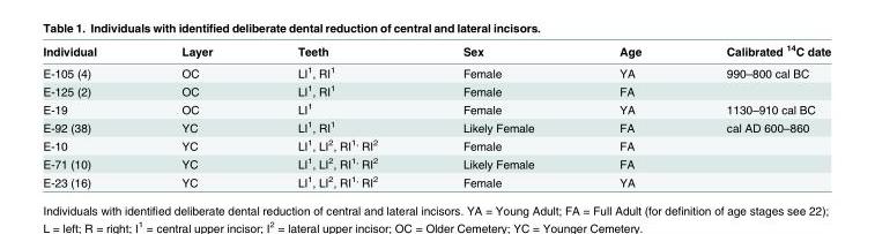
<table><thead><tr><td>Individual</td><td>Layer</td><td>Teeth</td><td>Sex</td><td>Age</td><td>Calibrated <sup>14</sup>C date</td></tr></thead><tbody><tr><td>E-105 (4)</td><td>OC</td><td>LI<sup>1</sup>, RI<sup>1</sup></td><td>Female</td><td>YA</td><td>990–800 cal BC</td></tr><tr><td>E-125 (2)</td><td>OC</td><td>LI<sup>1</sup>, RI<sup>1</sup></td><td>Female</td><td>FA</td><td></td></tr><tr><td>E-19</td><td>OC</td><td>LI<sup>1</sup></td><td>Female</td><td>YA</td><td>1130–910 cal BC</td></tr><tr><td>E-92 (38)</td><td>YC</td><td>LI<sup>1</sup>, RI<sup>1</sup></td><td>Likely Female</td><td>FA</td><td>cal AD 600–860</td></tr><tr><td>E-10</td><td>YC</td><td>LI<sup>1</sup>, LI<sup>2</sup>, RI<sup>1,</sup> RI<sup>2</sup></td><td>Female</td><td>FA</td><td></td></tr><tr><td>E-71 (10)</td><td>YC</td><td>LI<sup>1</sup>, LI<sup>2</sup>, RI<sup>1,</sup> RI<sup>2</sup></td><td>Likely Female</td><td>FA</td><td></td></tr><tr><td>E-23 (16)</td><td>YC</td><td>LI<sup>1</sup>, LI<sup>2</sup>, RI<sup>1,</sup> RI<sup>2</sup></td><td>Female</td><td>YA</td><td></td></tr></tbody></table>